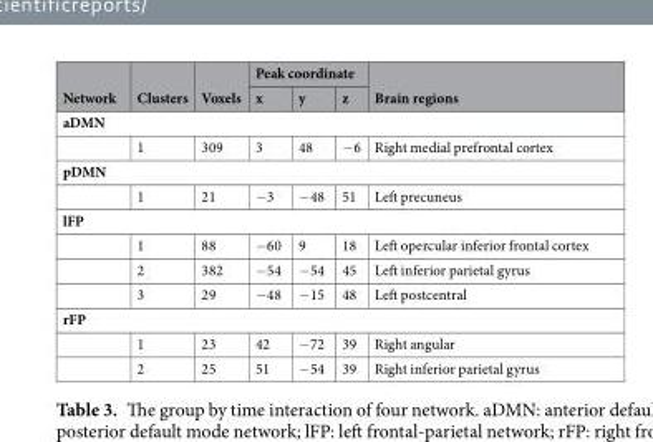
<table><thead><tr><td rowspan="2">Network</td><td rowspan="2">Clusters</td><td rowspan="2">Voxels</td><td colspan="3">Peak coordinate</td><td rowspan="2">Brain regions</td></tr><tr><td>x</td><td>y</td><td>z</td></tr></thead><tbody><tr><td colspan="7">aDMN</td></tr><tr><td></td><td>1</td><td>309</td><td>3</td><td>48</td><td>−6</td><td>Right medial prefrontal cortex</td></tr><tr><td colspan="7">pDMN</td></tr><tr><td></td><td>1</td><td>21</td><td>−3</td><td>−48</td><td>51</td><td>Left precuneus</td></tr><tr><td colspan="7">lFP</td></tr><tr><td></td><td>1</td><td>88</td><td>−60</td><td>9</td><td>18</td><td>Left opercular inferior frontal cortex</td></tr><tr><td></td><td>2</td><td>382</td><td>−54</td><td>−54</td><td>45</td><td>Left inferior parietal gyrus</td></tr><tr><td></td><td>3</td><td>29</td><td>−48</td><td>−15</td><td>48</td><td>Left postcentral</td></tr><tr><td colspan="7">rFP</td></tr><tr><td></td><td>1</td><td>23</td><td>42</td><td>−72</td><td>39</td><td>Right angular</td></tr><tr><td></td><td>2</td><td>25</td><td>51</td><td>−54</td><td>39</td><td>Right inferior parietal gyrus</td></tr></tbody></table>